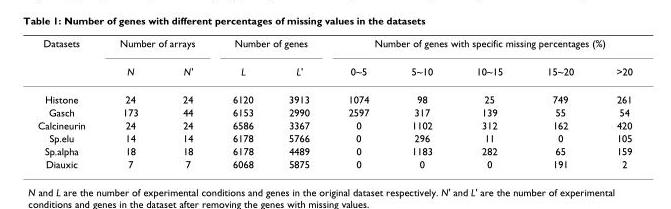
<table><thead><tr><td rowspan="2">Datasets</td><td colspan="2">Number of arrays</td><td colspan="2">Number of genes</td><td colspan="5">Number of genes with specific missing percentages (%)</td></tr><tr><td>N</td><td>N&#x27;</td><td>L</td><td>L&#x27;</td><td>0~5</td><td>5~10</td><td>10~15</td><td>15~20</td><td>&gt;20</td></tr></thead><tbody><tr><td>Histone</td><td>24</td><td>24</td><td>6120</td><td>3913</td><td>1074</td><td>98</td><td>25</td><td>749</td><td>261</td></tr><tr><td>Gasch</td><td>173</td><td>44</td><td>6153</td><td>2990</td><td>2597</td><td>317</td><td>139</td><td>55</td><td>54</td></tr><tr><td>Calcineurin</td><td>24</td><td>24</td><td>6586</td><td>3367</td><td>0</td><td>1102</td><td>312</td><td>162</td><td>420</td></tr><tr><td>Sp.elu</td><td>14</td><td>14</td><td>6178</td><td>5766</td><td>0</td><td>296</td><td>11</td><td>0</td><td>105</td></tr><tr><td>Sp.alpha</td><td>18</td><td>18</td><td>6178</td><td>4489</td><td>0</td><td>1183</td><td>282</td><td>65</td><td>159</td></tr><tr><td>Diauxic</td><td>7</td><td>7</td><td>6068</td><td>5875</td><td>0</td><td>0</td><td>0</td><td>191</td><td>2</td></tr></tbody></table>